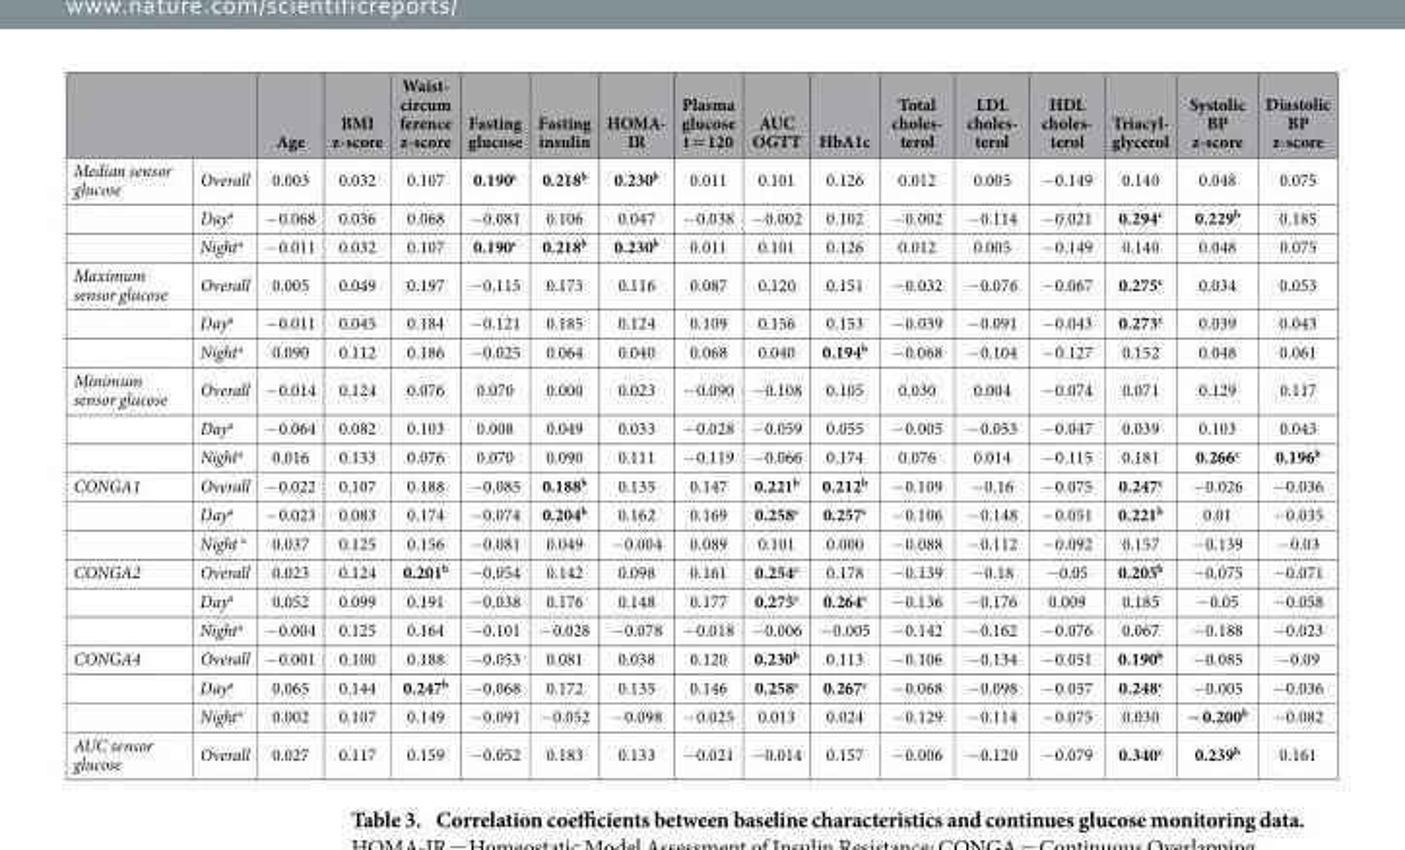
<table><thead><tr><td></td><td></td><td>Age</td><td>BMI z-score</td><td>Waist- circum ference z-score</td><td>Fasting glucose</td><td>Fasting insulin</td><td>HOMA- IR</td><td>Plasma glucose t = 120</td><td>AUC OGTT</td><td>HbA1c</td><td>Total choles- terol</td><td>LDL choles- terol</td><td>HDL choles- terol</td><td>Triacyl- glycerol</td><td>Systolic BP z-score</td><td>Diastolic BP z-score</td></tr></thead><tbody><tr><td rowspan="3">Median sensor glucose</td><td>Overall</td><td>0.003</td><td>0.032</td><td>0.107</td><td>0.190<sup>c</sup></td><td>0.218<sup>b</sup></td><td>0.230<sup>b</sup></td><td>0.011</td><td>0.101</td><td>0.126</td><td>0.012</td><td>0.005</td><td>− 0.149</td><td>0.140</td><td>0.048</td><td>0.075</td></tr><tr><td>Day<sup>a</sup></td><td>− 0.068</td><td>0.036</td><td>0.068</td><td>− 0.081</td><td>0.106</td><td>0.047</td><td>− 0.038</td><td>− 0.002</td><td>0.102</td><td>− 0.002</td><td>− 0.114</td><td>− 0.021</td><td>0.294<sup>c</sup></td><td>0.229<sup>b</sup></td><td>0.185</td></tr><tr><td>Night<sup>a</sup></td><td>− 0.011</td><td>0.032</td><td>0.107</td><td>0.190<sup>c</sup></td><td>0.218<sup>b</sup></td><td>0.230<sup>b</sup></td><td>0.011</td><td>0.101</td><td>0.126</td><td>0.012</td><td>0.005</td><td>− 0.149</td><td>0.140</td><td>0.048</td><td>0.075</td></tr><tr><td rowspan="3">Maximum sensor glucose</td><td>Overall</td><td>0.005</td><td>0.049</td><td>0.197</td><td>− 0.115</td><td>0.173</td><td>0.116</td><td>0.087</td><td>0.120</td><td>0.151</td><td>− 0.032</td><td>− 0.076</td><td>− 0.067</td><td>0.275<sup>c</sup></td><td>0.034</td><td>0.053</td></tr><tr><td>Day<sup>a</sup></td><td>− 0.011</td><td>0.045</td><td>0.184</td><td>− 0.121</td><td>0.185</td><td>0.124</td><td>0.109</td><td>0.156</td><td>0.153</td><td>− 0.039</td><td>− 0.091</td><td>− 0.043</td><td>0.273<sup>c</sup></td><td>0.039</td><td>0.043</td></tr><tr><td>Night<sup>a</sup></td><td>0.090</td><td>0.112</td><td>0.186</td><td>− 0.025</td><td>0.064</td><td>0.040</td><td>0.068</td><td>0.040</td><td>0.194<sup>b</sup></td><td>− 0.068</td><td>− 0.104</td><td>− 0.127</td><td>0.152</td><td>0.048</td><td>0.061</td></tr><tr><td rowspan="3">Minimum sensor glucose</td><td>Overall</td><td>− 0.014</td><td>0.124</td><td>0.076</td><td>0.070</td><td>0.000</td><td>0.023</td><td>− 0.090</td><td>− 0.108</td><td>0.105</td><td>0.030</td><td>0.004</td><td>− 0.074</td><td>0.071</td><td>0.129</td><td>0.117</td></tr><tr><td>Day<sup>a</sup></td><td>− 0.064</td><td>0.082</td><td>0.103</td><td>0.008</td><td>0.049</td><td>0.033</td><td>− 0.028</td><td>− 0.059</td><td>0.055</td><td>− 0.005</td><td>− 0.053</td><td>− 0.047</td><td>0.039</td><td>0.103</td><td>0.043</td></tr><tr><td>Night<sup>a</sup></td><td>0.016</td><td>0.133</td><td>0.076</td><td>0.070</td><td>0.090</td><td>0.111</td><td>− 0.119</td><td>− 0.066</td><td>0.174</td><td>0.076</td><td>0.014</td><td>− 0.115</td><td>0.181</td><td>0.266<sup>c</sup></td><td>0.196<sup>b</sup></td></tr><tr><td rowspan="3">CONGA1</td><td>Overall</td><td>− 0.022</td><td>0.107</td><td>0.188</td><td>− 0.085</td><td>0.188<sup>b</sup></td><td>0.135</td><td>0.147</td><td>0.221<sup>b</sup></td><td>0.212<sup>b</sup></td><td>− 0.109</td><td>− 0.16</td><td>− 0.075</td><td>0.247<sup>c</sup></td><td>− 0.026</td><td>− 0.036</td></tr><tr><td>Day<sup>a</sup></td><td>− 0.023</td><td>0.083</td><td>0.174</td><td>− 0.074</td><td>0.204<sup>b</sup></td><td>0.162</td><td>0.169</td><td>0.258<sup>c</sup></td><td>0.257<sup>c</sup></td><td>− 0.106</td><td>− 0.148</td><td>− 0.051</td><td>0.221<sup>b</sup></td><td>0.01</td><td>− 0.035</td></tr><tr><td>Night a</td><td>0.037</td><td>0.125</td><td>0.156</td><td>− 0.081</td><td>0.049</td><td>− 0.004</td><td>0.089</td><td>0.101</td><td>0.000</td><td>− 0.088</td><td>− 0.112</td><td>− 0.092</td><td>0.157</td><td>− 0.139</td><td>− 0.03</td></tr><tr><td rowspan="3">CONGA2</td><td>Overall</td><td>0.023</td><td>0.124</td><td>0.201<sup>b</sup></td><td>− 0.054</td><td>0.142</td><td>0.098</td><td>0.161</td><td>0.254<sup>c</sup></td><td>0.178</td><td>− 0.139</td><td>− 0.18</td><td>− 0.05</td><td>0.205<sup>b</sup></td><td>− 0.075</td><td>− 0.071</td></tr><tr><td>Day<sup>a</sup></td><td>0.052</td><td>0.099</td><td>0.191</td><td>− 0.038</td><td>0.176</td><td>0.148</td><td>0.177</td><td>0.275<sup>c</sup></td><td>0.264<sup>c</sup></td><td>− 0.136</td><td>− 0.176</td><td>0.009</td><td>0.185</td><td>− 0.05</td><td>− 0.058</td></tr><tr><td>Night<sup>a</sup></td><td>− 0.004</td><td>0.125</td><td>0.164</td><td>− 0.101</td><td>− 0.028</td><td>− 0.078</td><td>− 0.018</td><td>− 0.006</td><td>− 0.005</td><td>− 0.142</td><td>− 0.162</td><td>− 0.076</td><td>0.067</td><td>− 0.188</td><td>− 0.023</td></tr><tr><td rowspan="3">CONGA4</td><td>Overall</td><td>− 0.001</td><td>0.100</td><td>0.188</td><td>− 0.053</td><td>0.081</td><td>0.038</td><td>0.120</td><td>0.230<sup>b</sup></td><td>0.113</td><td>− 0.106</td><td>− 0.134</td><td>− 0.051</td><td>0.190<sup>b</sup></td><td>− 0.085</td><td>− 0.09</td></tr><tr><td>Day<sup>a</sup></td><td>0.065</td><td>0.144</td><td>0.247<sup>b</sup></td><td>− 0.068</td><td>0.172</td><td>0.135</td><td>0.146</td><td>0.258<sup>c</sup></td><td>0.267<sup>c</sup></td><td>− 0.068</td><td>− 0.098</td><td>− 0.057</td><td>0.248<sup>c</sup></td><td>− 0.005</td><td>− 0.036</td></tr><tr><td>Night<sup>a</sup></td><td>0.002</td><td>0.107</td><td>0.149</td><td>− 0.091</td><td>− 0.052</td><td>− 0.098</td><td>− 0.025</td><td>0.013</td><td>0.024</td><td>− 0.129</td><td>− 0.114</td><td>− 0.075</td><td>0.030</td><td>−0.200<sup>b</sup></td><td>− 0.082</td></tr><tr><td>AUC sensor glucose</td><td>Overall</td><td>0.027</td><td>0.117</td><td>0.159</td><td>− 0.052</td><td>0.183</td><td>0.133</td><td>− 0.021</td><td>− 0.014</td><td>0.157</td><td>− 0.006</td><td>− 0.120</td><td>− 0.079</td><td>0.340<sup>c</sup></td><td>0.239<sup>b</sup></td><td>0.161</td></tr></tbody></table>